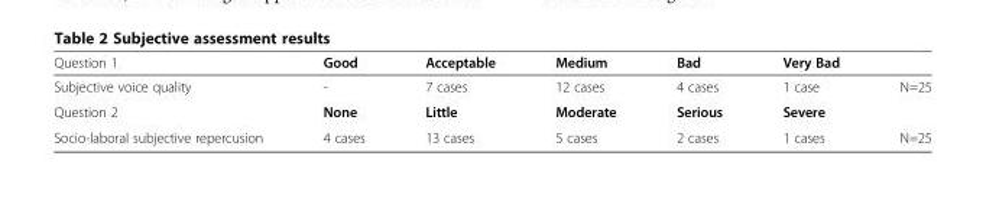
<table><thead><tr><td>Question 1</td><td>Good</td><td>Acceptable</td><td>Medium</td><td>Bad</td><td>Very Bad</td><td></td></tr></thead><tbody><tr><td>Subjective voice quality</td><td>-</td><td>7 cases</td><td>12 cases</td><td>4 cases</td><td>1 case</td><td>N=25</td></tr><tr><td>Question 2</td><td>None</td><td>Little</td><td>Moderate</td><td>Serious</td><td>Severe</td><td></td></tr><tr><td>Socio-laboral subjective repercusion</td><td>4 cases</td><td>13 cases</td><td>5 cases</td><td>2 cases</td><td>1 cases</td><td>N=25</td></tr></tbody></table>